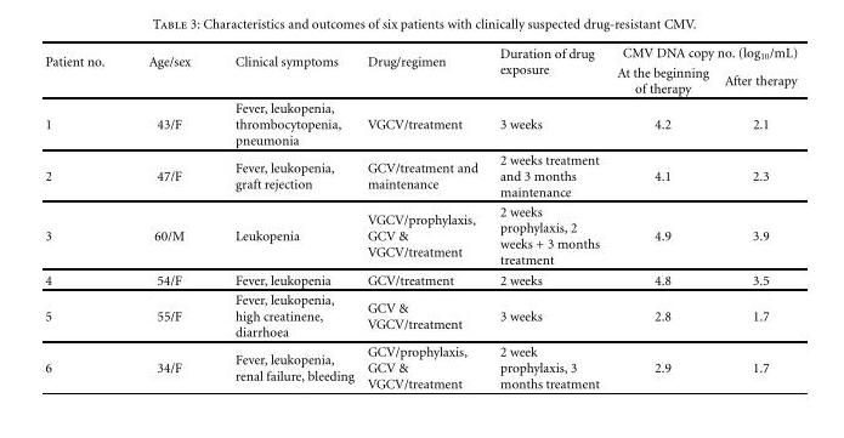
<table><thead><tr><td rowspan="2">Patient no.</td><td rowspan="2">Age/sex</td><td rowspan="2">Clinical symptoms</td><td rowspan="2">Drug/regimen</td><td rowspan="2">Duration of drug exposure</td><td colspan="2">CMV DNA copy no. (log<sub>10</sub>/mL)</td></tr><tr><td>At the beginning of therapy</td><td>After therapy</td></tr></thead><tbody><tr><td>1</td><td>43/F</td><td>Fever, leukopenia, thrombocytopenia, pneumonia</td><td>VGCV/treatment</td><td>3 weeks</td><td>4.2</td><td>2.1</td></tr><tr><td>2</td><td>47/F</td><td>Fever, leukopenia, graft rejection</td><td>GCV/treatment and maintenance</td><td>2 weeks treatment and 3 months maintenance</td><td>4.1</td><td>2.3</td></tr><tr><td>3</td><td>60/M</td><td>Leukopenia</td><td>VGCV/prophylaxis, GCV &amp; VGCV/treatment</td><td>2 weeks prophylaxis, 2 weeks + 3 months treatment</td><td>4.9</td><td>3.9</td></tr><tr><td>4</td><td>54/F</td><td>Fever, leukopenia</td><td>GCV/treatment</td><td>2 weeks</td><td>4.8</td><td>3.5</td></tr><tr><td>5</td><td>55/F</td><td>Fever, leukopenia, high creatinene, diarrhoea</td><td>GCV &amp; VGCV/treatment</td><td>3 weeks</td><td>2.8</td><td>1.7</td></tr><tr><td>6</td><td>34/F</td><td>Fever, leukopenia, renal failure, bleeding</td><td>GCV/prophylaxis, GCV &amp; VGCV/treatment</td><td>2 week prophylaxis, 3 months treatment</td><td>2.9</td><td>1.7</td></tr></tbody></table>